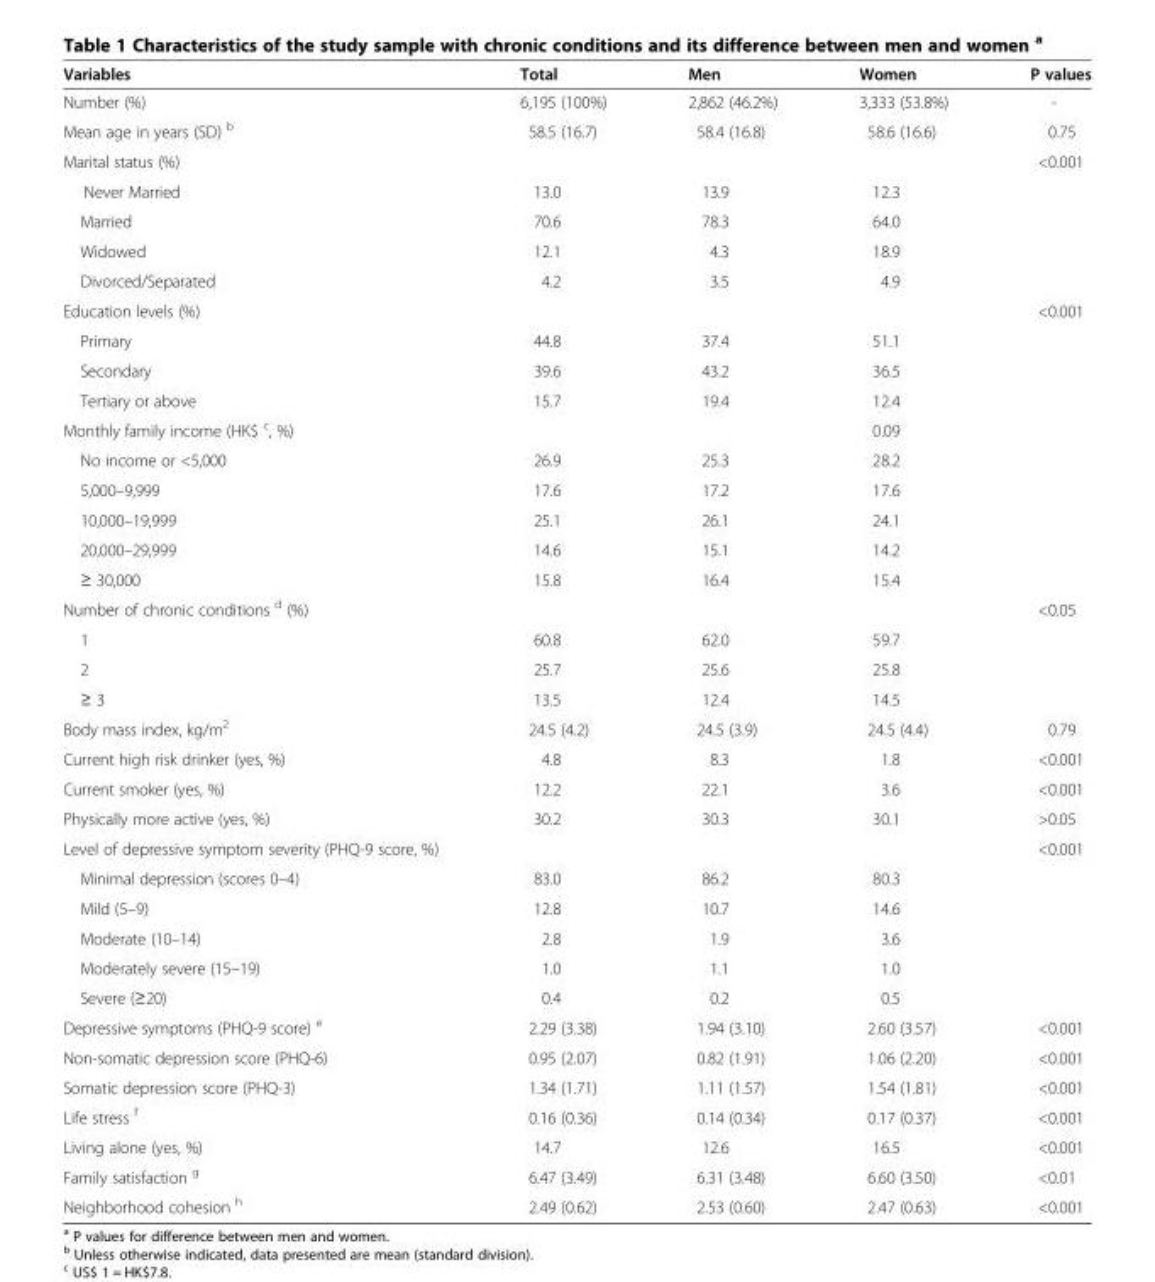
<table><thead><tr><td>Variables</td><td>Total</td><td>Men</td><td>Women</td><td>P values</td></tr></thead><tbody><tr><td>Number (%)</td><td>6,195 (100%)</td><td>2,862 (46.2%)</td><td>3,333 (53.8%)</td><td>-</td></tr><tr><td>Mean age in years (SD) <sup>b</sup></td><td>58.5 (16.7)</td><td>58.4 (16.8)</td><td>58.6 (16.6)</td><td>0.75</td></tr><tr><td>Marital status (%)</td><td></td><td></td><td></td><td>&lt;0.001</td></tr><tr><td>Never Married</td><td>13.0</td><td>13.9</td><td>12.3</td><td></td></tr><tr><td>Married</td><td>70.6</td><td>78.3</td><td>64.0</td><td></td></tr><tr><td>Widowed</td><td>12.1</td><td>4.3</td><td>18.9</td><td></td></tr><tr><td>Divorced/Separated</td><td>4.2</td><td>3.5</td><td>4.9</td><td></td></tr><tr><td>Education levels (%)</td><td></td><td></td><td></td><td>&lt;0.001</td></tr><tr><td>Primary</td><td>44.8</td><td>37.4</td><td>51.1</td><td></td></tr><tr><td>Secondary</td><td>39.6</td><td>43.2</td><td>36.5</td><td></td></tr><tr><td>Tertiary or above</td><td>15.7</td><td>19.4</td><td>12.4</td><td></td></tr><tr><td>Monthly family income (HK$ <sup>c</sup>, %)</td><td></td><td></td><td>0.09</td><td></td></tr><tr><td>No income or &lt;5,000</td><td>26.9</td><td>25.3</td><td>28.2</td><td></td></tr><tr><td>5,000–9,999</td><td>17.6</td><td>17.2</td><td>17.6</td><td></td></tr><tr><td>10,000–19,999</td><td>25.1</td><td>26.1</td><td>24.1</td><td></td></tr><tr><td>20,000–29,999</td><td>14.6</td><td>15.1</td><td>14.2</td><td></td></tr><tr><td>≥ 30,000</td><td>15.8</td><td>16.4</td><td>15.4</td><td></td></tr><tr><td>Number of chronic conditions <sup>d</sup> (%)</td><td></td><td></td><td></td><td>&lt;0.05</td></tr><tr><td>1</td><td>60.8</td><td>62.0</td><td>59.7</td><td></td></tr><tr><td>2</td><td>25.7</td><td>25.6</td><td>25.8</td><td></td></tr><tr><td>≥ 3</td><td>13.5</td><td>12.4</td><td>14.5</td><td></td></tr><tr><td>Body mass index, kg/m<sup>2</sup></td><td>24.5 (4.2)</td><td>24.5 (3.9)</td><td>24.5 (4.4)</td><td>0.79</td></tr><tr><td>Current high risk drinker (yes, %)</td><td>4.8</td><td>8.3</td><td>1.8</td><td>&lt;0.001</td></tr><tr><td>Current smoker (yes, %)</td><td>12.2</td><td>22.1</td><td>3.6</td><td>&lt;0.001</td></tr><tr><td>Physically more active (yes, %)</td><td>30.2</td><td>30.3</td><td>30.1</td><td>&gt;0.05</td></tr><tr><td>Level of depressive symptom severity (PHQ-9 score, %)</td><td></td><td></td><td></td><td>&lt;0.001</td></tr><tr><td>Minimal depression (scores 0–4)</td><td>83.0</td><td>86.2</td><td>80.3</td><td></td></tr><tr><td>Mild (5–9)</td><td>12.8</td><td>10.7</td><td>14.6</td><td></td></tr><tr><td>Moderate (10–14)</td><td>2.8</td><td>1.9</td><td>3.6</td><td></td></tr><tr><td>Moderately severe (15–19)</td><td>1.0</td><td>1.1</td><td>1.0</td><td></td></tr><tr><td>Severe (≥20)</td><td>0.4</td><td>0.2</td><td>0.5</td><td></td></tr><tr><td>Depressive symptoms (PHQ-9 score) <sup>e</sup></td><td>2.29 (3.38)</td><td>1.94 (3.10)</td><td>2.60 (3.57)</td><td>&lt;0.001</td></tr><tr><td>Non-somatic depression score (PHQ-6)</td><td>0.95 (2.07)</td><td>0.82 (1.91)</td><td>1.06 (2.20)</td><td>&lt;0.001</td></tr><tr><td>Somatic depression score (PHQ-3)</td><td>1.34 (1.71)</td><td>1.11 (1.57)</td><td>1.54 (1.81)</td><td>&lt;0.001</td></tr><tr><td>Life stress <sup>f</sup></td><td>0.16 (0.36)</td><td>0.14 (0.34)</td><td>0.17 (0.37)</td><td>&lt;0.001</td></tr><tr><td>Living alone (yes, %)</td><td>14.7</td><td>12.6</td><td>16.5</td><td>&lt;0.001</td></tr><tr><td>Family satisfaction <sup>g</sup></td><td>6.47 (3.49)</td><td>6.31 (3.48)</td><td>6.60 (3.50)</td><td>&lt;0.01</td></tr><tr><td>Neighborhood cohesion <sup>h</sup></td><td>2.49 (0.62)</td><td>2.53 (0.60)</td><td>2.47 (0.63)</td><td>&lt;0.001</td></tr></tbody></table>